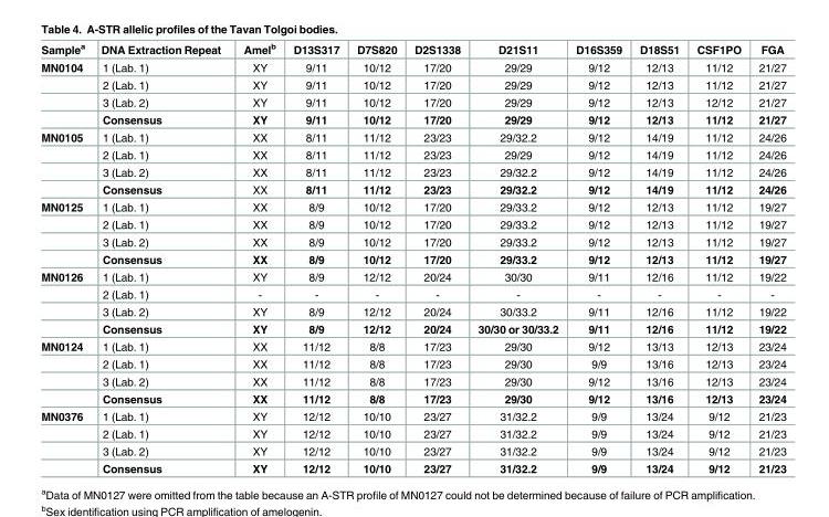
<table><thead><tr><td>Sample<sup>a</sup></td><td>DNA Extraction Repeat</td><td>Amel<sup>b</sup></td><td>D13S317</td><td>D7S820</td><td>D2S1338</td><td>D21S11</td><td>D16S359</td><td>D18S51</td><td>CSF1PO</td><td>FGA</td></tr></thead><tbody><tr><td rowspan="4">MN0104</td><td>1 (Lab. 1)</td><td>XY</td><td>9/11</td><td>10/12</td><td>17/20</td><td>29/29</td><td>9/12</td><td>12/13</td><td>11/12</td><td>21/27</td></tr><tr><td>2 (Lab. 1)</td><td>XY</td><td>9/11</td><td>10/12</td><td>17/20</td><td>29/29</td><td>9/12</td><td>12/13</td><td>11/12</td><td>21/27</td></tr><tr><td>3 (Lab. 2)</td><td>XY</td><td>9/11</td><td>10/12</td><td>17/20</td><td>29/29</td><td>9/12</td><td>12/13</td><td>12/12</td><td>21/27</td></tr><tr><td>Consensus</td><td>XY</td><td>9/11</td><td>10/12</td><td>17/20</td><td>29/29</td><td>9/12</td><td>12/13</td><td>11/12</td><td>21/27</td></tr><tr><td rowspan="4">MN0105</td><td>1 (Lab. 1)</td><td>XX</td><td>8/11</td><td>11/12</td><td>23/23</td><td>29/32.2</td><td>9/12</td><td>14/19</td><td>11/12</td><td>24/26</td></tr><tr><td>2 (Lab. 1)</td><td>XX</td><td>8/11</td><td>11/12</td><td>23/23</td><td>29/29</td><td>9/12</td><td>14/19</td><td>11/12</td><td>24/26</td></tr><tr><td>3 (Lab. 2)</td><td>XX</td><td>8/11</td><td>11/12</td><td>23/23</td><td>29/32.2</td><td>9/12</td><td>14/19</td><td>11/12</td><td>24/26</td></tr><tr><td>Consensus</td><td>XX</td><td>8/11</td><td>11/12</td><td>23/23</td><td>29/32.2</td><td>9/12</td><td>14/19</td><td>11/12</td><td>24/26</td></tr><tr><td rowspan="4">MN0125</td><td>1 (Lab. 1)</td><td>XX</td><td>8/9</td><td>10/12</td><td>17/20</td><td>29/33.2</td><td>9/12</td><td>12/13</td><td>11/12</td><td>19/27</td></tr><tr><td>2 (Lab. 1)</td><td>XX</td><td>8/9</td><td>10/12</td><td>17/20</td><td>29/33.2</td><td>9/12</td><td>12/13</td><td>11/12</td><td>19/27</td></tr><tr><td>3 (Lab. 2)</td><td>XX</td><td>8/9</td><td>10/12</td><td>17/20</td><td>29/33.2</td><td>9/12</td><td>12/13</td><td>11/12</td><td>19/27</td></tr><tr><td>Consensus</td><td>XX</td><td>8/9</td><td>10/12</td><td>17/20</td><td>29/33.2</td><td>9/12</td><td>12/13</td><td>11/12</td><td>19/27</td></tr><tr><td rowspan="4">MN0126</td><td>1 (Lab. 1)</td><td>XY</td><td>8/9</td><td>12/12</td><td>20/24</td><td>30/30</td><td>9/11</td><td>12/16</td><td>11/12</td><td>19/22</td></tr><tr><td>2 (Lab. 1)</td><td>-</td><td>-</td><td>-</td><td>-</td><td>-</td><td>-</td><td>-</td><td>-</td><td>-</td></tr><tr><td>3 (Lab. 2)</td><td>XY</td><td>8/9</td><td>12/12</td><td>20/24</td><td>30/33.2</td><td>9/11</td><td>12/16</td><td>11/12</td><td>19/22</td></tr><tr><td>Consensus</td><td>XY</td><td>8/9</td><td>12/12</td><td>20/24</td><td>30/30 or 30/33.2</td><td>9/11</td><td>12/16</td><td>11/12</td><td>19/22</td></tr><tr><td rowspan="4">MN0124</td><td>1 (Lab. 1)</td><td>XX</td><td>11/12</td><td>8/8</td><td>17/23</td><td>29/30</td><td>9/12</td><td>13/13</td><td>12/13</td><td>23/24</td></tr><tr><td>2 (Lab. 1)</td><td>XX</td><td>11/12</td><td>8/8</td><td>17/23</td><td>29/30</td><td>9/9</td><td>13/16</td><td>12/13</td><td>23/24</td></tr><tr><td>3 (Lab. 2)</td><td>XX</td><td>11/12</td><td>8/8</td><td>17/23</td><td>29/30</td><td>9/12</td><td>13/16</td><td>12/13</td><td>23/24</td></tr><tr><td>Consensus</td><td>XX</td><td>11/12</td><td>8/8</td><td>17/23</td><td>29/30</td><td>9/12</td><td>13/16</td><td>12/13</td><td>23/24</td></tr><tr><td rowspan="4">MN0376</td><td>1 (Lab. 1)</td><td>XY</td><td>12/12</td><td>10/10</td><td>23/27</td><td>31/32.2</td><td>9/9</td><td>13/24</td><td>9/12</td><td>21/23</td></tr><tr><td>2 (Lab. 1)</td><td>XY</td><td>12/12</td><td>10/10</td><td>23/27</td><td>31/32.2</td><td>9/9</td><td>13/24</td><td>9/12</td><td>21/23</td></tr><tr><td>3 (Lab. 2)</td><td>XY</td><td>12/12</td><td>10/10</td><td>23/27</td><td>31/32.2</td><td>9/9</td><td>13/24</td><td>9/12</td><td>21/23</td></tr><tr><td>Consensus</td><td>XY</td><td>12/12</td><td>10/10</td><td>23/27</td><td>31/32.2</td><td>9/9</td><td>13/24</td><td>9/12</td><td>21/23</td></tr></tbody></table>